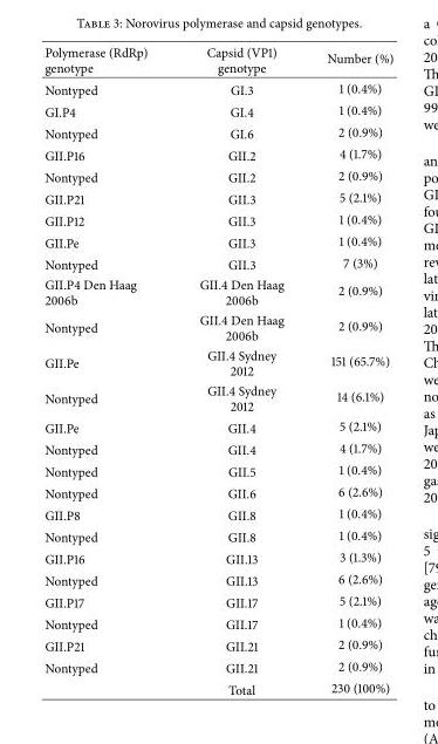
<table><thead><tr><td>Polymerase (RdRp) genotype</td><td>Capsid (VP1) genotype</td><td>Number (%)</td></tr></thead><tbody><tr><td>Nontyped</td><td>GI.3</td><td>1 (0.4%)</td></tr><tr><td>GI.P4</td><td>GI.4</td><td>1 (0.4%)</td></tr><tr><td>Nontyped</td><td>GI.6</td><td>2 (0.9%)</td></tr><tr><td>GII.P16</td><td>GII.2</td><td>4 (1.7%)</td></tr><tr><td>Nontyped</td><td>GII.2</td><td>2 (0.9%)</td></tr><tr><td>GII.P21</td><td>GII.3</td><td>5 (2.1%)</td></tr><tr><td>GII.P12</td><td>GII.3</td><td>1 (0.4%)</td></tr><tr><td>GII.Pe</td><td>GII.3</td><td>1 (0.4%)</td></tr><tr><td>Nontyped</td><td>GII.3</td><td>7 (3%)</td></tr><tr><td>GII.P4 Den Haag 2006b</td><td>GII.4 Den Haag 2006b</td><td>2 (0.9%)</td></tr><tr><td>Nontyped</td><td>GII.4 Den Haag 2006b</td><td>2 (0.9%)</td></tr><tr><td>GII.Pe</td><td>GII.4 Sydney 2012</td><td>151 (65.7%)</td></tr><tr><td>Nontyped</td><td>GII.4 Sydney 2012</td><td>14 (6.1%)</td></tr><tr><td>GII.Pe</td><td>GII.4</td><td>5 (2.1%)</td></tr><tr><td>Nontyped</td><td>GII.4</td><td>4 (1.7%)</td></tr><tr><td>Nontyped</td><td>GII.5</td><td>1 (0.4%)</td></tr><tr><td>Nontyped</td><td>GII.6</td><td>6 (2.6%)</td></tr><tr><td>GII.P8</td><td>GII.8</td><td>1 (0.4%)</td></tr><tr><td>Nontyped</td><td>GII.8</td><td>1 (0.4%)</td></tr><tr><td>GII.P16</td><td>GII.13</td><td>3 (1.3%)</td></tr><tr><td>Nontyped</td><td>GII.13</td><td>6 (2.6%)</td></tr><tr><td>GII.P17</td><td>GII.17</td><td>5 (2.1%)</td></tr><tr><td>Nontyped</td><td>GII.17</td><td>1 (0.4%)</td></tr><tr><td>GII.P21</td><td>GII.21</td><td>2 (0.9%)</td></tr><tr><td rowspan="2">Nontyped</td><td>GII.21</td><td>2 (0.9%)</td></tr><tr><td>Total</td><td>230 (100%)</td></tr></tbody></table>